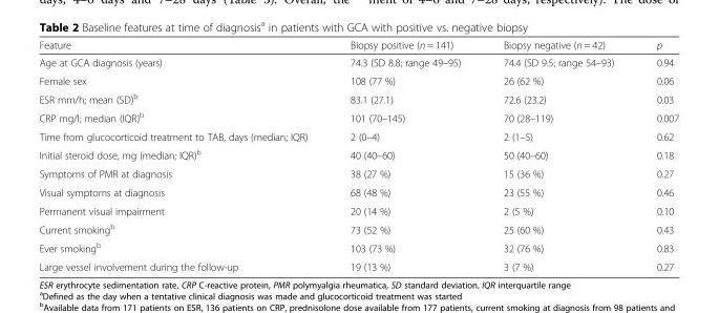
<table><thead><tr><td>Feature</td><td>Biopsy positive (n = 141)</td><td>Biopsy negative (n = 42)</td><td>p</td></tr></thead><tbody><tr><td>Age at GCA diagnosis (years)</td><td>74.3 (SD 8.8; range 49–95)</td><td>74.4 (SD 9.5; range 54–93)</td><td>0.94</td></tr><tr><td>Female sex</td><td>108 (77 %)</td><td>26 (62 %)</td><td>0.06</td></tr><tr><td>ESR mm/h; mean (SD)<sup>b</sup></td><td>83.1 (27.1)</td><td>72.6 (23.2)</td><td>0.03</td></tr><tr><td>CRP mg/l; median (IQR)<sup>b</sup></td><td>101 (70–145)</td><td>70 (28–119)</td><td>0.007</td></tr><tr><td>Time from glucocorticoid treatment to TAB, days (median; IQR)</td><td>2 (0–4)</td><td>2 (1–5)</td><td>0.62</td></tr><tr><td>Initial steroid dose, mg (median; IQR)<sup>b</sup></td><td>40 (40–60)</td><td>50 (40–60)</td><td>0.18</td></tr><tr><td>Symptoms of PMR at diagnosis</td><td>38 (27 %)</td><td>15 (36 %)</td><td>0.27</td></tr><tr><td>Visual symptoms at diagnosis</td><td>68 (48 %)</td><td>23 (55 %)</td><td>0.46</td></tr><tr><td>Permanent visual impairment</td><td>20 (14 %)</td><td>2 (5 %)</td><td>0.10</td></tr><tr><td>Current smoking<sup>b</sup></td><td>73 (52 %)</td><td>25 (60 %)</td><td>0.43</td></tr><tr><td>Ever smoking<sup>b</sup></td><td>103 (73 %)</td><td>32 (76 %)</td><td>0.83</td></tr><tr><td>Large vessel involvement during the follow-up</td><td>19 (13 %)</td><td>3 (7 %)</td><td>0.27</td></tr></tbody></table>